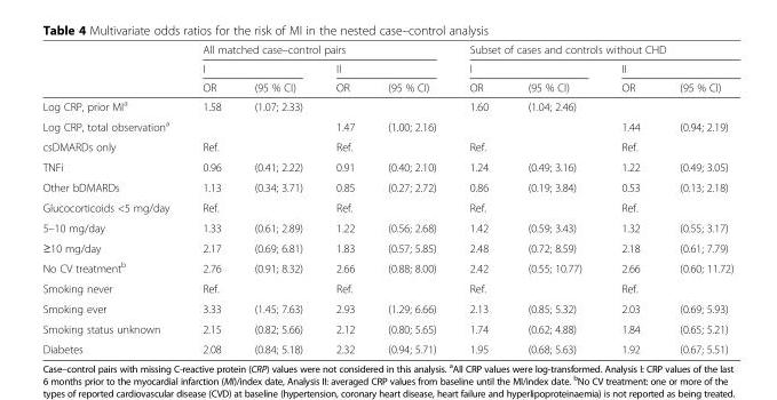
<table><thead><tr><td rowspan="3"></td><td colspan="4">All matched case–control pairs</td><td colspan="4">Subset of cases and controls without CHD</td></tr><tr><td colspan="2">I</td><td colspan="2">II</td><td colspan="2">I</td><td colspan="2">II</td></tr><tr><td>OR</td><td>(95 % CI)</td><td>OR</td><td>(95 % CI)</td><td>OR</td><td>(95 % CI)</td><td>OR</td><td>(95 % CI)</td></tr></thead><tbody><tr><td>Log CRP, prior MI<sup>a</sup></td><td>1.58</td><td>(1.07; 2.33)</td><td></td><td></td><td>1.60</td><td>(1.04; 2.46)</td><td></td><td></td></tr><tr><td>Log CRP, total observation<sup>a</sup></td><td></td><td></td><td>1.47</td><td>(1.00; 2.16)</td><td></td><td></td><td>1.44</td><td>(0.94; 2.19)</td></tr><tr><td>csDMARDs only</td><td colspan="2">Ref.</td><td colspan="2">Ref.</td><td colspan="2">Ref.</td><td colspan="2">Ref.</td></tr><tr><td>TNFi</td><td>0.96</td><td>(0.41; 2.22)</td><td>0.91</td><td>(0.40; 2.10)</td><td>1.24</td><td>(0.49; 3.16)</td><td>1.22</td><td>(0.49; 3.05)</td></tr><tr><td>Other bDMARDs</td><td>1.13</td><td>(0.34; 3.71)</td><td>0.85</td><td>(0.27; 2.72)</td><td>0.86</td><td>(0.19; 3.84)</td><td>0.53</td><td>(0.13; 2.18)</td></tr><tr><td>Glucocorticoids &lt;5 mg/day</td><td colspan="2">Ref.</td><td colspan="2">Ref.</td><td colspan="2">Ref.</td><td colspan="2">Ref.</td></tr><tr><td>5–10 mg/day</td><td>1.33</td><td>(0.61; 2.89)</td><td>1.22</td><td>(0.56; 2.68)</td><td>1.42</td><td>(0.59; 3.43)</td><td>1.32</td><td>(0.55; 3.17)</td></tr><tr><td>≥10 mg/day</td><td>2.17</td><td>(0.69; 6.81)</td><td>1.83</td><td>(0.57; 5.85)</td><td>2.48</td><td>(0.72; 8.59)</td><td>2.18</td><td>(0.61; 7.79)</td></tr><tr><td>No CV treatment<sup>b</sup></td><td>2.76</td><td>(0.91; 8.32)</td><td>2.66</td><td>(0.88; 8.00)</td><td>2.42</td><td>(0.55; 10.77)</td><td>2.66</td><td>(0.60; 11.72)</td></tr><tr><td>Smoking never</td><td colspan="2">Ref.</td><td colspan="2">Ref.</td><td colspan="2">Ref.</td><td colspan="2">Ref.</td></tr><tr><td>Smoking ever</td><td>3.33</td><td>(1.45; 7.63)</td><td>2.93</td><td>(1.29; 6.66)</td><td>2.13</td><td>(0.85; 5.32)</td><td>2.03</td><td>(0.69; 5.93)</td></tr><tr><td>Smoking status unknown</td><td>2.15</td><td>(0.82; 5.66)</td><td>2.12</td><td>(0.80; 5.65)</td><td>1.74</td><td>(0.62; 4.88)</td><td>1.84</td><td>(0.65; 5.21)</td></tr><tr><td>Diabetes</td><td>2.08</td><td>(0.84; 5.18)</td><td>2.32</td><td>(0.94; 5.71)</td><td>1.95</td><td>(0.68; 5.63)</td><td>1.92</td><td>(0.67; 5.51)</td></tr></tbody></table>